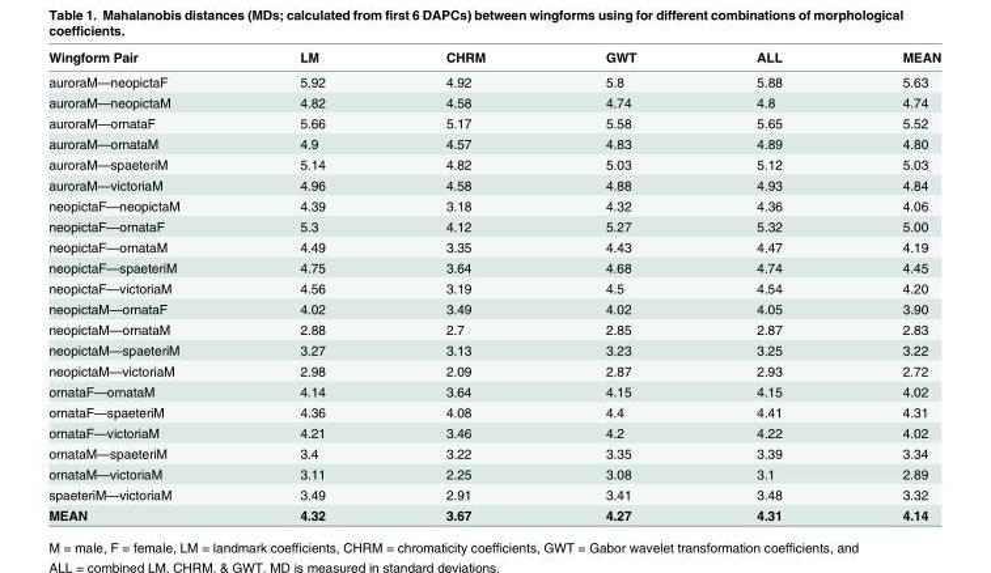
<table><thead><tr><td>Wingform Pair</td><td>LM</td><td>CHRM</td><td>GWT</td><td>ALL</td><td>MEAN</td></tr></thead><tbody><tr><td>auroraM—neopictaF</td><td>5.92</td><td>4.92</td><td>5.8</td><td>5.88</td><td>5.63</td></tr><tr><td>auroraM—neopictaM</td><td>4.82</td><td>4.58</td><td>4.74</td><td>4.8</td><td>4.74</td></tr><tr><td>auroraM—ornataF</td><td>5.66</td><td>5.17</td><td>5.58</td><td>5.65</td><td>5.52</td></tr><tr><td>auroraM—ornataM</td><td>4.9</td><td>4.57</td><td>4.83</td><td>4.89</td><td>4.80</td></tr><tr><td>auroraM—spaeteriM</td><td>5.14</td><td>4.82</td><td>5.03</td><td>5.12</td><td>5.03</td></tr><tr><td>auroraM—victoriaM</td><td>4.96</td><td>4.58</td><td>4.88</td><td>4.93</td><td>4.84</td></tr><tr><td>neopictaF—neopictaM</td><td>4.39</td><td>3.18</td><td>4.32</td><td>4.36</td><td>4.06</td></tr><tr><td>neopictaF—ornataF</td><td>5.3</td><td>4.12</td><td>5.27</td><td>5.32</td><td>5.00</td></tr><tr><td>neopictaF—ornataM</td><td>4.49</td><td>3.35</td><td>4.43</td><td>4.47</td><td>4.19</td></tr><tr><td>neopictaF—spaeteriM</td><td>4.75</td><td>3.64</td><td>4.68</td><td>4.74</td><td>4.45</td></tr><tr><td>neopictaF—victoriaM</td><td>4.56</td><td>3.19</td><td>4.5</td><td>4.54</td><td>4.20</td></tr><tr><td>neopictaM—ornataF</td><td>4.02</td><td>3.49</td><td>4.02</td><td>4.05</td><td>3.90</td></tr><tr><td>neopictaM—ornataM</td><td>2.88</td><td>2.7</td><td>2.85</td><td>2.87</td><td>2.83</td></tr><tr><td>neopictaM—spaeteriM</td><td>3.27</td><td>3.13</td><td>3.23</td><td>3.25</td><td>3.22</td></tr><tr><td>neopictaM—victoriaM</td><td>2.98</td><td>2.09</td><td>2.87</td><td>2.93</td><td>2.72</td></tr><tr><td>ornataF—ornataM</td><td>4.14</td><td>3.64</td><td>4.15</td><td>4.15</td><td>4.02</td></tr><tr><td>ornataF—spaeteriM</td><td>4.36</td><td>4.08</td><td>4.4</td><td>4.41</td><td>4.31</td></tr><tr><td>ornataF—victoriaM</td><td>4.21</td><td>3.46</td><td>4.2</td><td>4.22</td><td>4.02</td></tr><tr><td>ornataM—spaeteriM</td><td>3.4</td><td>3.22</td><td>3.35</td><td>3.39</td><td>3.34</td></tr><tr><td>ornataM—victoriaM</td><td>3.11</td><td>2.25</td><td>3.08</td><td>3.1</td><td>2.89</td></tr><tr><td>spaeteriM—victoriaM</td><td>3.49</td><td>2.91</td><td>3.41</td><td>3.48</td><td>3.32</td></tr><tr><td>MEAN</td><td>4.32</td><td>3.67</td><td>4.27</td><td>4.31</td><td>4.14</td></tr></tbody></table>